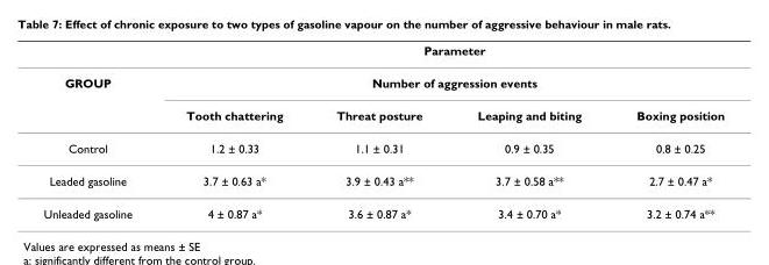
<table><thead><tr><td rowspan="3">GROUP</td><td rowspan="2" colspan="4">Parameter Number of aggression events</td></tr><tr></tr><tr><td>Tooth chattering</td><td>Threat posture</td><td>Leaping and biting</td><td>Boxing position</td></tr></thead><tbody><tr><td>Control</td><td>1.2 ± 0.33</td><td>1.1 ± 0.31</td><td>0.9 ± 0.35</td><td>0.8 ± 0.25</td></tr><tr><td>Leaded gasoline</td><td>3.7 ± 0.63 a*</td><td>3.9 ± 0.43 a**</td><td>3.7 ± 0.58 a**</td><td>2.7 ± 0.47 a*</td></tr><tr><td>Unleaded gasoline</td><td>4 ± 0.87 a*</td><td>3.6 ± 0.87 a*</td><td>3.4 ± 0.70 a*</td><td>3.2 ± 0.74 a**</td></tr></tbody></table>